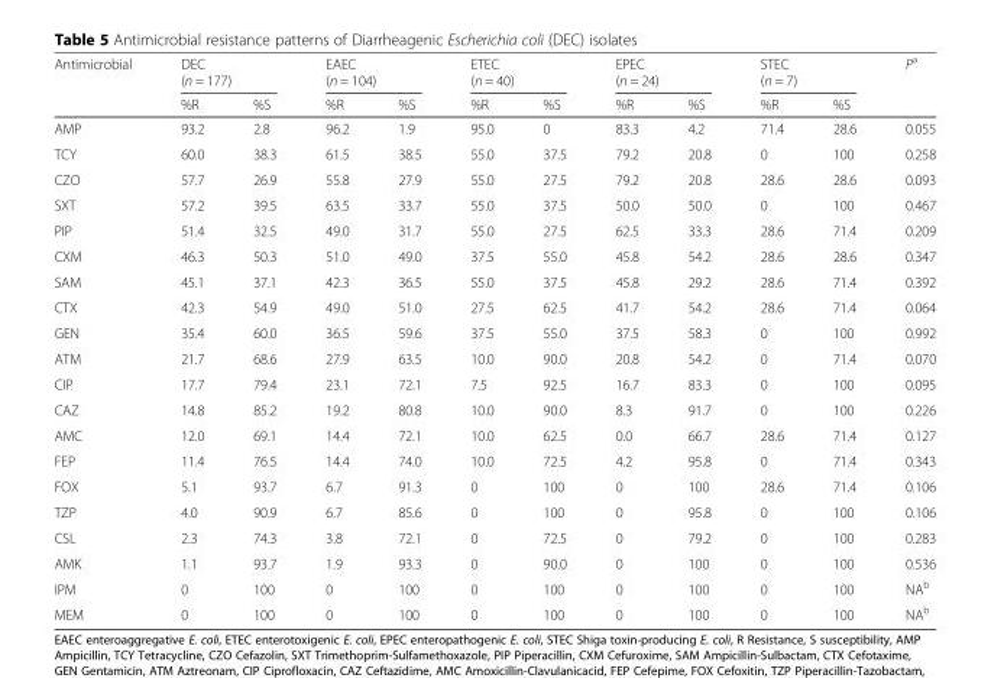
<table><thead><tr><td rowspan="3">Antimicrobial</td><td rowspan="2" colspan="2">DEC (n = 177)</td><td rowspan="2" colspan="2">EAEC (n = 104)</td><td rowspan="2" colspan="2">ETEC (n = 40)</td><td rowspan="2" colspan="2">EPEC (n = 24)</td><td rowspan="2" colspan="2">STEC (n = 7)</td><td rowspan="3">P<sup>a</sup></td></tr><tr></tr><tr><td>%R</td><td>%S</td><td>%R</td><td>%S</td><td>%R</td><td>%S</td><td>%R</td><td>%S</td><td>%R</td><td>%S</td></tr></thead><tbody><tr><td>AMP</td><td>93.2</td><td>2.8</td><td>96.2</td><td>1.9</td><td>95.0</td><td>0</td><td>83.3</td><td>4.2</td><td>71.4</td><td>28.6</td><td>0.055</td></tr><tr><td>TCY</td><td>60.0</td><td>38.3</td><td>61.5</td><td>38.5</td><td>55.0</td><td>37.5</td><td>79.2</td><td>20.8</td><td>0</td><td>100</td><td>0.258</td></tr><tr><td>CZO</td><td>57.7</td><td>26.9</td><td>55.8</td><td>27.9</td><td>55.0</td><td>27.5</td><td>79.2</td><td>20.8</td><td>28.6</td><td>28.6</td><td>0.093</td></tr><tr><td>SXT</td><td>57.2</td><td>39.5</td><td>63.5</td><td>33.7</td><td>55.0</td><td>37.5</td><td>50.0</td><td>50.0</td><td>0</td><td>100</td><td>0.467</td></tr><tr><td>PIP</td><td>51.4</td><td>32.5</td><td>49.0</td><td>31.7</td><td>55.0</td><td>27.5</td><td>62.5</td><td>33.3</td><td>28.6</td><td>71.4</td><td>0.209</td></tr><tr><td>CXM</td><td>46.3</td><td>50.3</td><td>51.0</td><td>49.0</td><td>37.5</td><td>55.0</td><td>45.8</td><td>54.2</td><td>28.6</td><td>28.6</td><td>0.347</td></tr><tr><td>SAM</td><td>45.1</td><td>37.1</td><td>42.3</td><td>36.5</td><td>55.0</td><td>37.5</td><td>45.8</td><td>29.2</td><td>28.6</td><td>71.4</td><td>0.392</td></tr><tr><td>CTX</td><td>42.3</td><td>54.9</td><td>49.0</td><td>51.0</td><td>27.5</td><td>62.5</td><td>41.7</td><td>54.2</td><td>28.6</td><td>71.4</td><td>0.064</td></tr><tr><td>GEN</td><td>35.4</td><td>60.0</td><td>36.5</td><td>59.6</td><td>37.5</td><td>55.0</td><td>37.5</td><td>58.3</td><td>0</td><td>100</td><td>0.992</td></tr><tr><td>ATM</td><td>21.7</td><td>68.6</td><td>27.9</td><td>63.5</td><td>10.0</td><td>90.0</td><td>20.8</td><td>54.2</td><td>0</td><td>71.4</td><td>0.070</td></tr><tr><td>CIP</td><td>17.7</td><td>79.4</td><td>23.1</td><td>72.1</td><td>7.5</td><td>92.5</td><td>16.7</td><td>83.3</td><td>0</td><td>100</td><td>0.095</td></tr><tr><td>CAZ</td><td>14.8</td><td>85.2</td><td>19.2</td><td>80.8</td><td>10.0</td><td>90.0</td><td>8.3</td><td>91.7</td><td>0</td><td>100</td><td>0.226</td></tr><tr><td>AMC</td><td>12.0</td><td>69.1</td><td>14.4</td><td>72.1</td><td>10.0</td><td>62.5</td><td>0.0</td><td>66.7</td><td>28.6</td><td>71.4</td><td>0.127</td></tr><tr><td>FEP</td><td>11.4</td><td>76.5</td><td>14.4</td><td>74.0</td><td>10.0</td><td>72.5</td><td>4.2</td><td>95.8</td><td>0</td><td>71.4</td><td>0.343</td></tr><tr><td>FOX</td><td>5.1</td><td>93.7</td><td>6.7</td><td>91.3</td><td>0</td><td>100</td><td>0</td><td>100</td><td>28.6</td><td>71.4</td><td>0.106</td></tr><tr><td>TZP</td><td>4.0</td><td>90.9</td><td>6.7</td><td>85.6</td><td>0</td><td>100</td><td>0</td><td>95.8</td><td>0</td><td>100</td><td>0.106</td></tr><tr><td>CSL</td><td>2.3</td><td>74.3</td><td>3.8</td><td>72.1</td><td>0</td><td>72.5</td><td>0</td><td>79.2</td><td>0</td><td>100</td><td>0.283</td></tr><tr><td>AMK</td><td>1.1</td><td>93.7</td><td>1.9</td><td>93.3</td><td>0</td><td>90.0</td><td>0</td><td>100</td><td>0</td><td>100</td><td>0.536</td></tr><tr><td>IPM</td><td>0</td><td>100</td><td>0</td><td>100</td><td>0</td><td>100</td><td>0</td><td>100</td><td>0</td><td>100</td><td>NA<sup>b</sup></td></tr><tr><td>MEM</td><td>0</td><td>100</td><td>0</td><td>100</td><td>0</td><td>100</td><td>0</td><td>100</td><td>0</td><td>100</td><td>NA<sup>b</sup></td></tr></tbody></table>